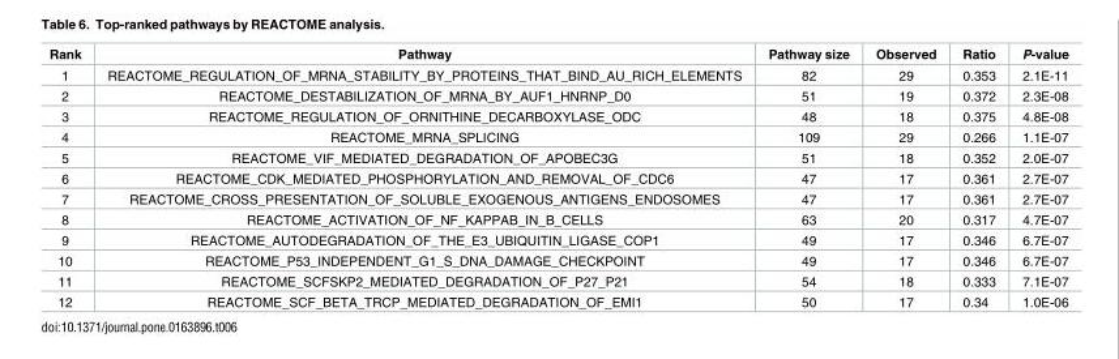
<table><thead><tr><td>Rank</td><td>Pathway</td><td>Pathway size</td><td>Observed</td><td>Ratio</td><td>P-value</td></tr></thead><tbody><tr><td>1</td><td>REACTOME_REGULATION_OF_MRNA_STABILITY_BY_PROTEINS_THAT_BIND_AU_RICH_ELEMENTS</td><td>82</td><td>29</td><td>0.353</td><td>2.1E-11</td></tr><tr><td>2</td><td>REACTOME_DESTABILIZATION_OF_MRNA_BY_AUF1_HNRNP_D0</td><td>51</td><td>19</td><td>0.372</td><td>2.3E-08</td></tr><tr><td>3</td><td>REACTOME_REGULATION_OF_ORNITHINE_DECARBOXYLASE_ODC</td><td>48</td><td>18</td><td>0.375</td><td>4.8E-08</td></tr><tr><td>4</td><td>REACTOME_MRNA_SPLICING</td><td>109</td><td>29</td><td>0.266</td><td>1.1E-07</td></tr><tr><td>5</td><td>REACTOME_VIF_MEDIATED_DEGRADATION_OF_APOBEC3G</td><td>51</td><td>18</td><td>0.352</td><td>2.0E-07</td></tr><tr><td>6</td><td>REACTOME_CDK_MEDIATED_PHOSPHORYLATION_AND_REMOVAL_OF_CDC6</td><td>47</td><td>17</td><td>0.361</td><td>2.7E-07</td></tr><tr><td>7</td><td>REACTOME_CROSS_PRESENTATION_OF_SOLUBLE_EXOGENOUS_ANTIGENS_ENDOSOMES</td><td>47</td><td>17</td><td>0.361</td><td>2.7E-07</td></tr><tr><td>8</td><td>REACTOME_ACTIVATION_OF_NF_KAPPAB_IN_B_CELLS</td><td>63</td><td>20</td><td>0.317</td><td>4.7E-07</td></tr><tr><td>9</td><td>REACTOME_AUTODEGRADATION_OF_THE_E3_UBIQUITIN_LIGASE_COP1</td><td>49</td><td>17</td><td>0.346</td><td>6.7E-07</td></tr><tr><td>10</td><td>REACTOME_P53_INDEPENDENT_G1_S_DNA_DAMAGE_CHECKPOINT</td><td>49</td><td>17</td><td>0.346</td><td>6.7E-07</td></tr><tr><td>11</td><td>REACTOME_SCFSKP2_MEDIATED_DEGRADATION_OF_P27_P21</td><td>54</td><td>18</td><td>0.333</td><td>7.1E-07</td></tr><tr><td>12</td><td>REACTOME_SCF_BETA_TRCP_MEDIATED_DEGRADATION_OF_EMI1</td><td>50</td><td>17</td><td>0.34</td><td>1.0E-06</td></tr></tbody></table>